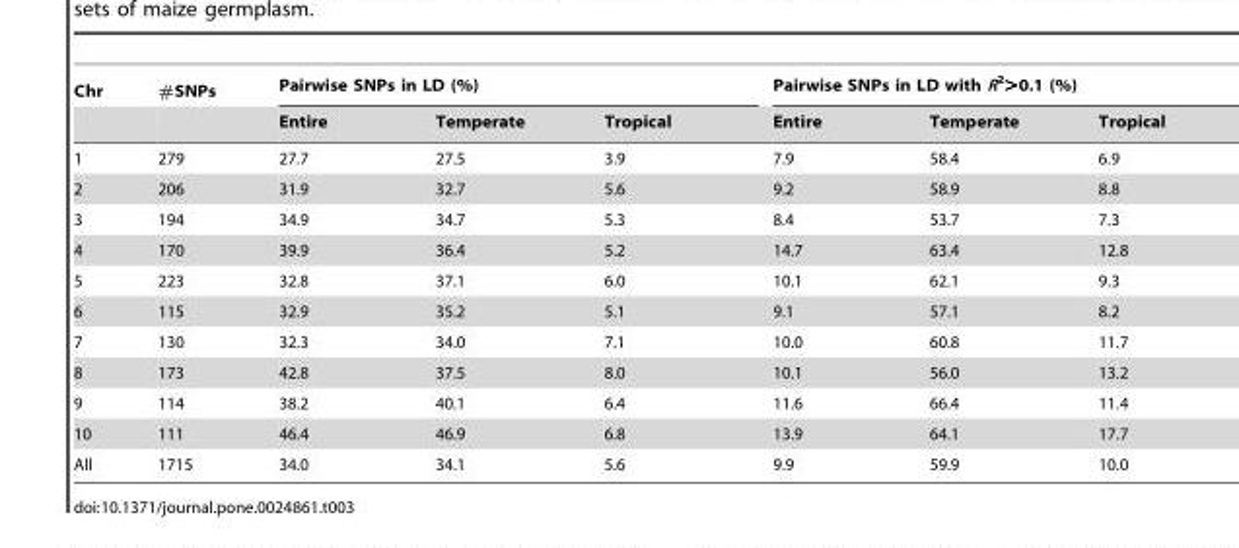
<table><thead><tr><td rowspan="2">Chr</td><td rowspan="2">#SNPs</td><td colspan="3">Pairwise SNPs in LD (%)</td><td colspan="3">Pairwise SNPs in LD with R<sup>2</sup>&gt;0.1 (%)</td></tr><tr><td>Entire</td><td>Temperate</td><td>Tropical</td><td>Entire</td><td>Temperate</td><td>Tropical</td></tr></thead><tbody><tr><td>1</td><td>279</td><td>27.7</td><td>27.5</td><td>3.9</td><td>7.9</td><td>58.4</td><td>6.9</td></tr><tr><td>2</td><td>206</td><td>31.9</td><td>32.7</td><td>5.6</td><td>9.2</td><td>58.9</td><td>8.8</td></tr><tr><td>3</td><td>194</td><td>34.9</td><td>34.7</td><td>5.3</td><td>8.4</td><td>53.7</td><td>7.3</td></tr><tr><td>4</td><td>170</td><td>39.9</td><td>36.4</td><td>5.2</td><td>14.7</td><td>63.4</td><td>12.8</td></tr><tr><td>5</td><td>223</td><td>32.8</td><td>37.1</td><td>6.0</td><td>10.1</td><td>62.1</td><td>9.3</td></tr><tr><td>6</td><td>115</td><td>32.9</td><td>35.2</td><td>5.1</td><td>9.1</td><td>57.1</td><td>8.2</td></tr><tr><td>7</td><td>130</td><td>32.3</td><td>34.0</td><td>7.1</td><td>10.0</td><td>60.8</td><td>11.7</td></tr><tr><td>8</td><td>173</td><td>42.8</td><td>37.5</td><td>8.0</td><td>10.1</td><td>56.0</td><td>13.2</td></tr><tr><td>9</td><td>114</td><td>38.2</td><td>40.1</td><td>6.4</td><td>11.6</td><td>66.4</td><td>11.4</td></tr><tr><td>10</td><td>111</td><td>46.4</td><td>46.9</td><td>6.8</td><td>13.9</td><td>64.1</td><td>17.7</td></tr><tr><td>All</td><td>1715</td><td>34.0</td><td>34.1</td><td>5.6</td><td>9.9</td><td>59.9</td><td>10.0</td></tr></tbody></table>